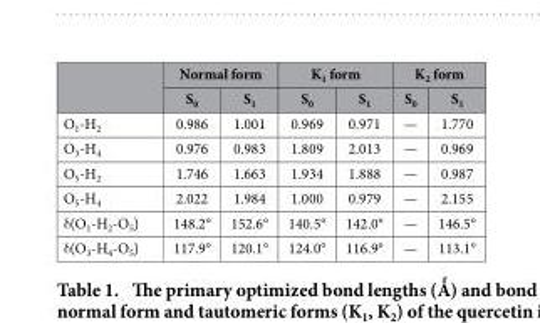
<table><thead><tr><td rowspan="2"></td><td colspan="2">Normal form</td><td colspan="2">K<sub>1</sub> form</td><td colspan="2">K<sub>2</sub> form</td></tr><tr><td>S<sub>0</sub></td><td>S<sub>1</sub></td><td>S<sub>0</sub></td><td>S<sub>1</sub></td><td>S<sub>0</sub></td><td>S<sub>1</sub></td></tr></thead><tbody><tr><td>O<sub>1</sub>-H<sub>2</sub></td><td>0.986</td><td>1.001</td><td>0.969</td><td>0.971</td><td>—</td><td>1.770</td></tr><tr><td>O<sub>3</sub>-H<sub>4</sub></td><td>0.976</td><td>0.983</td><td>1.809</td><td>2.013</td><td>—</td><td>0.969</td></tr><tr><td>O<sub>5</sub>-H<sub>2</sub></td><td>1.746</td><td>1.663</td><td>1.934</td><td>1.888</td><td>—</td><td>0.987</td></tr><tr><td>O<sub>5</sub>-H<sub>4</sub></td><td>2.022</td><td>1.984</td><td>1.000</td><td>0.979</td><td>—</td><td>2.155</td></tr><tr><td>δ (O<sub>1</sub>-H<sub>2</sub>-O<sub>5</sub>)</td><td>148.2°</td><td>152.6°</td><td>140.5°</td><td>142.0°</td><td>—</td><td>146.5°</td></tr><tr><td>δ (O<sub>3</sub>-H<sub>4</sub>-O<sub>5</sub>)</td><td>117.9°</td><td>120.1°</td><td>124.0°</td><td>116.9°</td><td>—</td><td>113.1°</td></tr></tbody></table>